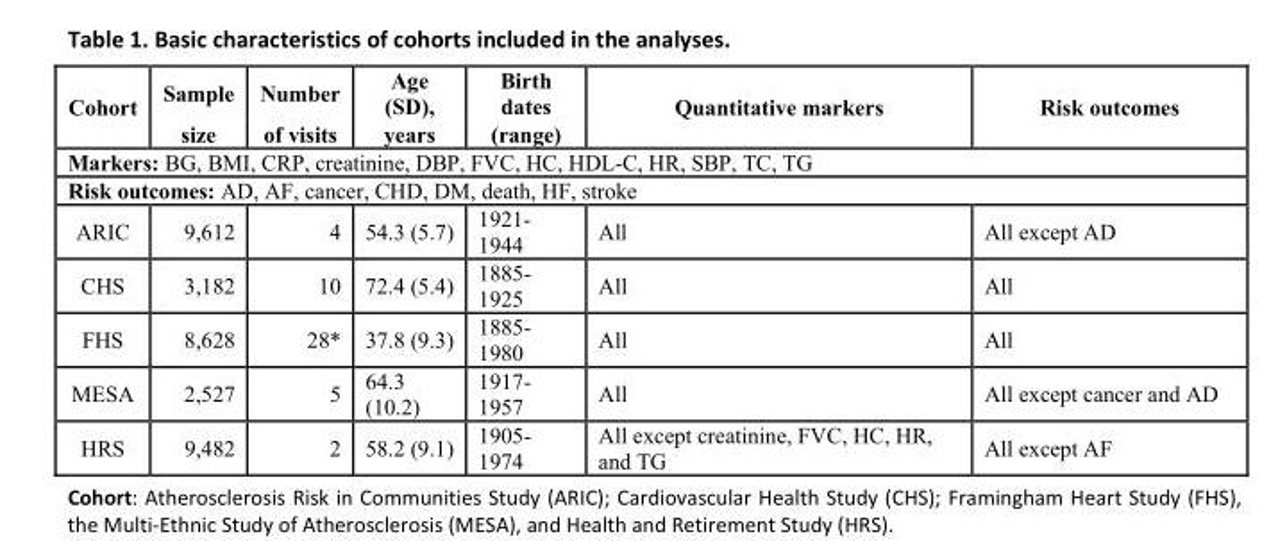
<table><tbody><tr><td rowspan="2">Cohort</td><td>Sample</td><td>Number</td><td>Age (SD),</td><td>Birth dates</td><td rowspan="2">Quantitative markers</td><td rowspan="2">Risk outcomes</td></tr><tr><td>size</td><td>of visits</td><td>years</td><td>(range)</td></tr><tr><td colspan="7">Markers: BG, BMI, CRP, creatinine, DBP, FVC, HC, HDL-C, HR, SBP, TC, TG</td></tr><tr><td colspan="7">Risk outcomes: AD, AF, cancer, CHD, DM, death, HF, stroke</td></tr><tr><td>ARIC</td><td>9,612</td><td>4</td><td>54.3 (5.7)</td><td>1921- 1944</td><td>All</td><td>All except AD</td></tr><tr><td>CHS</td><td>3,182</td><td>10</td><td>72.4 (5.4)</td><td>1885- 1925</td><td>All</td><td>All</td></tr><tr><td>FHS</td><td>8,628</td><td>28*</td><td>37.8 (9.3)</td><td>1885- 1980</td><td>All</td><td>All</td></tr><tr><td>MESA</td><td>2,527</td><td>5</td><td>64.3 (10.2)</td><td>1917- 1957</td><td>All</td><td>All except cancer and AD</td></tr><tr><td>HRS</td><td>9,482</td><td>2</td><td>58.2 (9.1)</td><td>1905- 1974</td><td>All except creatinine, FVC, HC, HR, and TG</td><td>All except AF</td></tr></tbody></table>